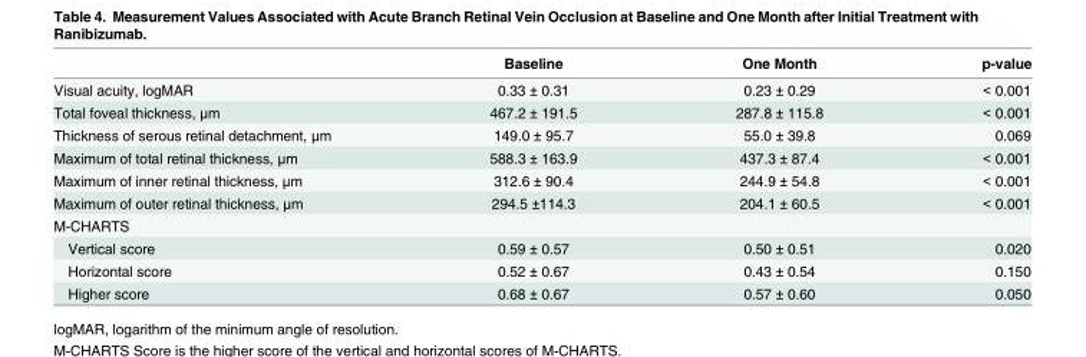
<table><thead><tr><td></td><td>Baseline</td><td>One Month</td><td>p-value</td></tr></thead><tbody><tr><td>Visual acuity, logMAR</td><td>0.33 ± 0.31</td><td>0.23 ± 0.29</td><td>&lt; 0.001</td></tr><tr><td>Total foveal thickness, μm</td><td>467.2 ± 191.5</td><td>287.8 ± 115.8</td><td>&lt; 0.001</td></tr><tr><td>Thickness of serous retinal detachment, μm</td><td>149.0 ± 95.7</td><td>55.0 ± 39.8</td><td>0.069</td></tr><tr><td>Maximum of total retinal thickness, μm</td><td>588.3 ± 163.9</td><td>437.3 ± 87.4</td><td>&lt; 0.001</td></tr><tr><td>Maximum of inner retinal thickness, μm</td><td>312.6 ± 90.4</td><td>244.9 ± 54.8</td><td>&lt; 0.001</td></tr><tr><td>Maximum of outer retinal thickness, μm</td><td>294.5 ±114.3</td><td>204.1 ± 60.5</td><td>&lt; 0.001</td></tr><tr><td colspan="4">M-CHARTS</td></tr><tr><td>Vertical score</td><td>0.59 ± 0.57</td><td>0.50 ± 0.51</td><td>0.020</td></tr><tr><td>Horizontal score</td><td>0.52 ± 0.67</td><td>0.43 ± 0.54</td><td>0.150</td></tr><tr><td>Higher score</td><td>0.68 ± 0.67</td><td>0.57 ± 0.60</td><td>0.050</td></tr></tbody></table>